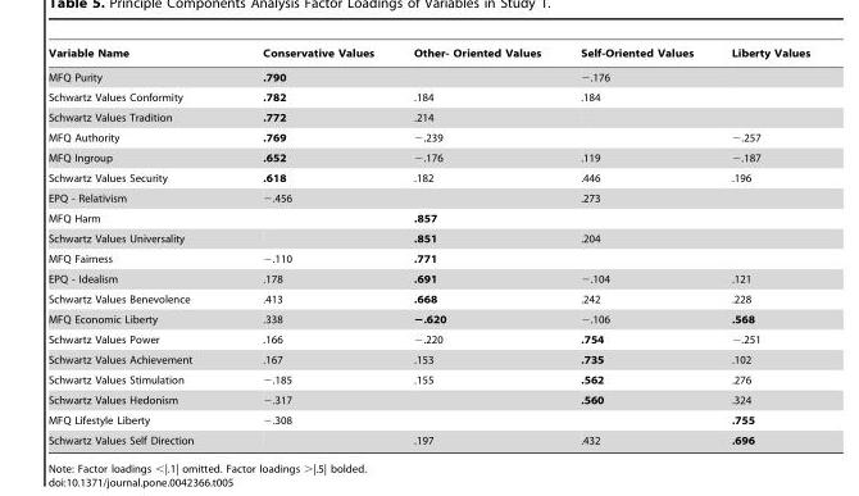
<table><thead><tr><td>Variable Name</td><td>Conservative Values</td><td>Other- Oriented Values</td><td>Self-Oriented Values</td><td>Liberty Values</td></tr></thead><tbody><tr><td>MFQ Purity</td><td>.790</td><td></td><td>−.176</td><td></td></tr><tr><td>Schwartz Values Conformity</td><td>.782</td><td>.184</td><td>.184</td><td></td></tr><tr><td>Schwartz Values Tradition</td><td>.772</td><td>.214</td><td></td><td></td></tr><tr><td>MFQ Authority</td><td>.769</td><td>−.239</td><td></td><td>−.257</td></tr><tr><td>MFQ Ingroup</td><td>.652</td><td>−.176</td><td>.119</td><td>−.187</td></tr><tr><td>Schwartz Values Security</td><td>.618</td><td>.182</td><td>.446</td><td>.196</td></tr><tr><td>EPQ - Relativism</td><td>−.456</td><td></td><td>.273</td><td></td></tr><tr><td>MFQ Harm</td><td></td><td>.857</td><td></td><td></td></tr><tr><td>Schwartz Values Universality</td><td></td><td>.851</td><td>.204</td><td></td></tr><tr><td>MFQ Fairness</td><td>−.110</td><td>.771</td><td></td><td></td></tr><tr><td>EPQ - Idealism</td><td>.178</td><td>.691</td><td>−.104</td><td>.121</td></tr><tr><td>Schwartz Values Benevolence</td><td>.413</td><td>.668</td><td>.242</td><td>.228</td></tr><tr><td>MFQ Economic Liberty</td><td>.338</td><td>−.620</td><td>−.106</td><td>.568</td></tr><tr><td>Schwartz Values Power</td><td>.166</td><td>−.220</td><td>.754</td><td>−.251</td></tr><tr><td>Schwartz Values Achievement</td><td>.167</td><td>.153</td><td>.735</td><td>.102</td></tr><tr><td>Schwartz Values Stimulation</td><td>−.185</td><td>.155</td><td>.562</td><td>.276</td></tr><tr><td>Schwartz Values Hedonism</td><td>−.317</td><td></td><td>.560</td><td>.324</td></tr><tr><td>MFQ Lifestyle Liberty</td><td>−.308</td><td></td><td></td><td>.755</td></tr><tr><td>Schwartz Values Self Direction</td><td></td><td>.197</td><td>.432</td><td>.696</td></tr></tbody></table>